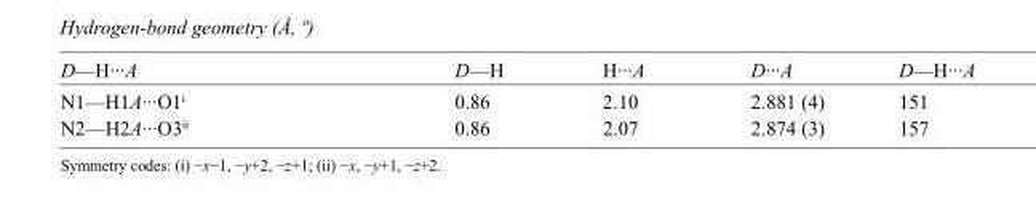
<table><tbody><tr><td>D—H···A</td><td>D—H</td><td>H···A</td><td>D···A</td><td>D—H···A</td></tr><tr><td>N1—H1A···O1<sup>i</sup></td><td>0.86</td><td>2.10</td><td>2.881 (4)</td><td>151</td></tr><tr><td>N2—H2A···O3<sup>ii</sup></td><td>0.86</td><td>2.07</td><td>2.874 (3)</td><td>157</td></tr></tbody></table>